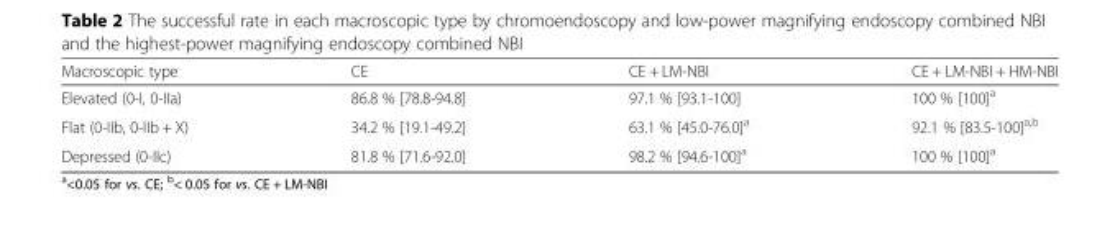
<table><thead><tr><td>Macroscopic type</td><td>CE</td><td>CE + LM-NBI</td><td>CE + LM-NBI + HM-NBI</td></tr></thead><tbody><tr><td>Elevated (0-I, 0-IIa)</td><td>86.8 % [78.8-94.8]</td><td>97.1 % [93.1-100]</td><td>100 % [100]<sup>a</sup></td></tr><tr><td>Flat (0-IIb, 0-IIb + X)</td><td>34.2 % [19.1-49.2]</td><td>63.1 % [45.0-76.0]<sup>a</sup></td><td>92.1 % [83.5-100]<sup>a,b</sup></td></tr><tr><td>Depressed (0-IIc)</td><td>81.8 % [71.6-92.0]</td><td>98.2 % [94.6-100]<sup>a</sup></td><td>100 % [100]<sup>a</sup></td></tr></tbody></table>